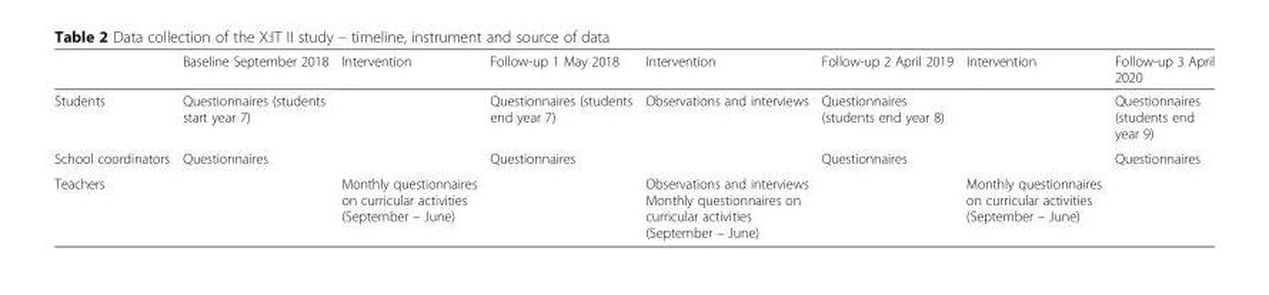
<table><thead><tr><td></td><td>Baseline September 2018</td><td>Intervention</td><td>Follow-up 1 May 2018</td><td>Intervention</td><td>Follow-up 2 April 2019</td><td>Intervention</td><td>Follow-up 3 April 2020</td></tr></thead><tbody><tr><td>Students</td><td>Questionnaires (students start year 7)</td><td></td><td>Questionnaires (students end year 7)</td><td>Observations and interviews</td><td>Questionnaires (students end year 8)</td><td></td><td>Questionnaires (students end year 9)</td></tr><tr><td>School coordinators</td><td>Questionnaires</td><td></td><td>Questionnaires</td><td></td><td>Questionnaires</td><td></td><td>Questionnaires</td></tr><tr><td>Teachers</td><td></td><td>Monthly questionnaires on curricular activities (September – June)</td><td></td><td>Observations and interviews Monthly questionnaires on curricular activities (September – June)</td><td></td><td>Monthly questionnaires on curricular activities (September – June)</td><td></td></tr></tbody></table>